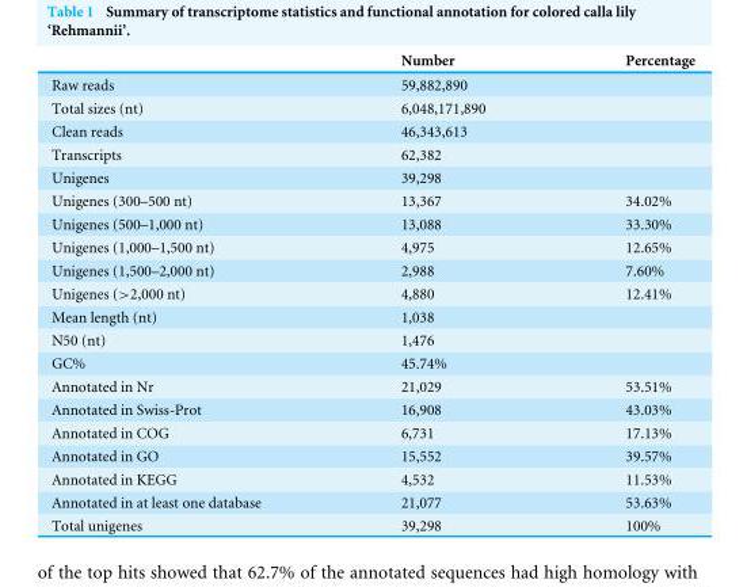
<table><thead><tr><td></td><td>Number</td><td>Percentage</td></tr></thead><tbody><tr><td>Raw reads</td><td>59,882,890</td><td></td></tr><tr><td>Total sizes (nt)</td><td>6,048,171,890</td><td></td></tr><tr><td>Clean reads</td><td>46,343,613</td><td></td></tr><tr><td>Transcripts</td><td>62,382</td><td></td></tr><tr><td>Unigenes</td><td>39,298</td><td></td></tr><tr><td>Unigenes (300–500 nt)</td><td>13,367</td><td>34.02%</td></tr><tr><td>Unigenes (500–1,000 nt)</td><td>13,088</td><td>33.30%</td></tr><tr><td>Unigenes (1,000–1,500 nt)</td><td>4,975</td><td>12.65%</td></tr><tr><td>Unigenes (1,500–2,000 nt)</td><td>2,988</td><td>7.60%</td></tr><tr><td>Unigenes (&gt;2,000 nt)</td><td>4,880</td><td>12.41%</td></tr><tr><td>Mean length (nt)</td><td>1,038</td><td></td></tr><tr><td>N50 (nt)</td><td>1,476</td><td></td></tr><tr><td>GC%</td><td>45.74%</td><td></td></tr><tr><td>Annotated in Nr</td><td>21,029</td><td>53.51%</td></tr><tr><td>Annotated in Swiss-Prot</td><td>16,908</td><td>43.03%</td></tr><tr><td>Annotated in COG</td><td>6,731</td><td>17.13%</td></tr><tr><td>Annotated in GO</td><td>15,552</td><td>39.57%</td></tr><tr><td>Annotated in KEGG</td><td>4,532</td><td>11.53%</td></tr><tr><td>Annotated in at least one database</td><td>21,077</td><td>53.63%</td></tr><tr><td>Total unigenes</td><td>39,298</td><td>100%</td></tr></tbody></table>